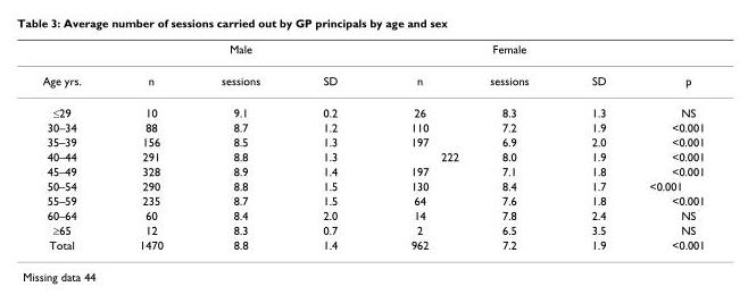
<table><thead><tr><td rowspan="2">Age yrs.</td><td colspan="3">Male</td><td colspan="3">Female</td><td rowspan="2">p</td></tr><tr><td>n</td><td>sessions</td><td>SD</td><td>n</td><td>sessions</td><td>SD</td></tr></thead><tbody><tr><td>≤29</td><td>10</td><td>9.1</td><td>0.2</td><td>26</td><td>8.3</td><td>1.3</td><td>NS</td></tr><tr><td>30–34</td><td>88</td><td>8.7</td><td>1.2</td><td>110</td><td>7.2</td><td>1.9</td><td>&lt;0.001</td></tr><tr><td>35–39</td><td>156</td><td>8.5</td><td>1.3</td><td>197</td><td>6.9</td><td>2.0</td><td>&lt;0.001</td></tr><tr><td>40–44</td><td>291</td><td>8.8</td><td>1.3</td><td>222</td><td>8.0</td><td>1.9</td><td>&lt;0.001</td></tr><tr><td>45–49</td><td>328</td><td>8.9</td><td>1.4</td><td>197</td><td>7.1</td><td>1.8</td><td>&lt;0.001</td></tr><tr><td>50–54</td><td>290</td><td>8.8</td><td>1.5</td><td>130</td><td>8.4</td><td>1.7</td><td>&lt;0.001</td></tr><tr><td>55–59</td><td>235</td><td>8.7</td><td>1.5</td><td>64</td><td>7.6</td><td>1.8</td><td>&lt;0.001</td></tr><tr><td>60–64</td><td>60</td><td>8.4</td><td>2.0</td><td>14</td><td>7.8</td><td>2.4</td><td>NS</td></tr><tr><td>≥65</td><td>12</td><td>8.3</td><td>0.7</td><td>2</td><td>6.5</td><td>3.5</td><td>NS</td></tr><tr><td>Total</td><td>1470</td><td>8.8</td><td>1.4</td><td>962</td><td>7.2</td><td>1.9</td><td>&lt;0.001</td></tr></tbody></table>